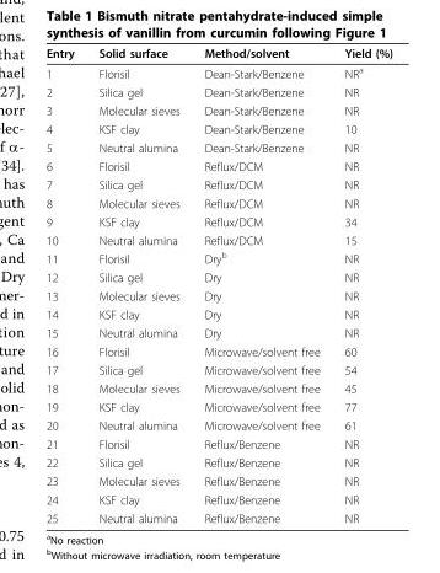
<table><thead><tr><td>Entry</td><td>Solid surface</td><td>Method/solvent</td><td>Yield (%)</td></tr></thead><tbody><tr><td>1</td><td>Florisil</td><td>Dean-Stark/Benzene</td><td>NR<sup>a</sup></td></tr><tr><td>2</td><td>Silica gel</td><td>Dean-Stark/Benzene</td><td>NR</td></tr><tr><td>3</td><td>Molecular sieves</td><td>Dean-Stark/Benzene</td><td>NR</td></tr><tr><td>4</td><td>KSF clay</td><td>Dean-Stark/Benzene</td><td>10</td></tr><tr><td>5</td><td>Neutral alumina</td><td>Dean-Stark/Benzene</td><td>NR</td></tr><tr><td>6</td><td>Florisil</td><td>Reflux/DCM</td><td>NR</td></tr><tr><td>7</td><td>Silica gel</td><td>Reflux/DCM</td><td>NR</td></tr><tr><td>8</td><td>Molecular sieves</td><td>Reflux/DCM</td><td>NR</td></tr><tr><td>9</td><td>KSF clay</td><td>Reflux/DCM</td><td>34</td></tr><tr><td>10</td><td>Neutral alumina</td><td>Reflux/DCM</td><td>15</td></tr><tr><td>11</td><td>Florisil</td><td>Dry<sup>b</sup></td><td>NR</td></tr><tr><td>12</td><td>Silica gel</td><td>Dry</td><td>NR</td></tr><tr><td>13</td><td>Molecular sieves</td><td>Dry</td><td>NR</td></tr><tr><td>14</td><td>KSF clay</td><td>Dry</td><td>NR</td></tr><tr><td>15</td><td>Neutral alumina</td><td>Dry</td><td>NR</td></tr><tr><td>16</td><td>Florisil</td><td>Microwave/solvent free</td><td>60</td></tr><tr><td>17</td><td>Silica gel</td><td>Microwave/solvent free</td><td>54</td></tr><tr><td>18</td><td>Molecular sieves</td><td>Microwave/solvent free</td><td>45</td></tr><tr><td>19</td><td>KSF clay</td><td>Microwave/solvent free</td><td>77</td></tr><tr><td>20</td><td>Neutral alumina</td><td>Microwave/solvent free</td><td>61</td></tr><tr><td>21</td><td>Florisil</td><td>Reflux/Benzene</td><td>NR</td></tr><tr><td>22</td><td>Silica gel</td><td>Reflux/Benzene</td><td>NR</td></tr><tr><td>23</td><td>Molecular sieves</td><td>Reflux/Benzene</td><td>NR</td></tr><tr><td>24</td><td>KSF clay</td><td>Reflux/Benzene</td><td>NR</td></tr><tr><td>25</td><td>Neutral alumina</td><td>Reflux/Benzene</td><td>NR</td></tr></tbody></table>